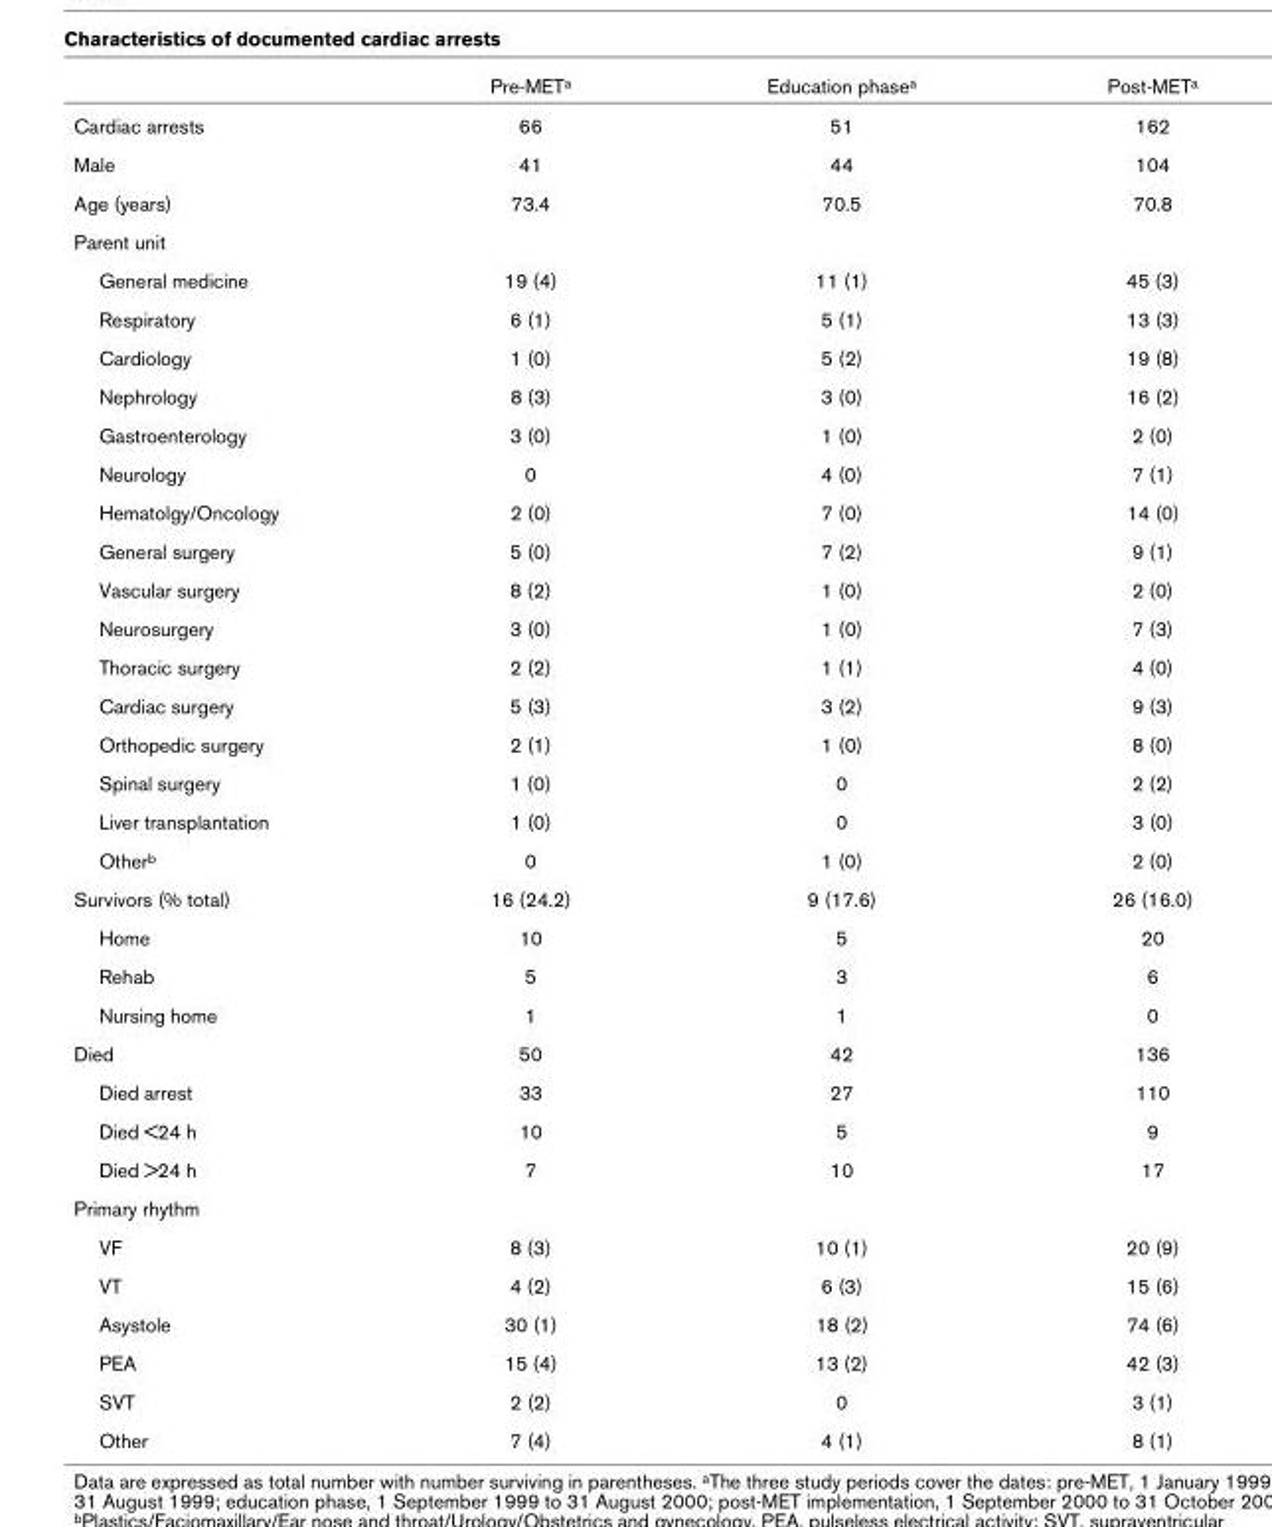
<table><thead><tr><td></td><td>Pre-METa</td><td>Education phasea</td><td>Post-METa</td></tr></thead><tbody><tr><td>Cardiac arrests</td><td>66</td><td>51</td><td>162</td></tr><tr><td>Male</td><td>41</td><td>44</td><td>104</td></tr><tr><td>Age (years)</td><td>73.4</td><td>70.5</td><td>70.8</td></tr><tr><td colspan="4">Parent unit</td></tr><tr><td>General medicine</td><td>19 (4)</td><td>11 (1)</td><td>45 (3)</td></tr><tr><td>Respiratory</td><td>6 (1)</td><td>5 (1)</td><td>13 (3)</td></tr><tr><td>Cardiology</td><td>1 (0)</td><td>5 (2)</td><td>19 (8)</td></tr><tr><td>Nephrology</td><td>8 (3)</td><td>3 (0)</td><td>16 (2)</td></tr><tr><td>Gastroenterology</td><td>3 (0)</td><td>1 (0)</td><td>2 (0)</td></tr><tr><td>Neurology</td><td>0</td><td>4 (0)</td><td>7 (1)</td></tr><tr><td>Hematolgy/Oncology</td><td>2 (0)</td><td>7 (0)</td><td>14 (0)</td></tr><tr><td>General surgery</td><td>5 (0)</td><td>7 (2)</td><td>9 (1)</td></tr><tr><td>Vascular surgery</td><td>8 (2)</td><td>1 (0)</td><td>2 (0)</td></tr><tr><td>Neurosurgery</td><td>3 (0)</td><td>1 (0)</td><td>7 (3)</td></tr><tr><td>Thoracic surgery</td><td>2 (2)</td><td>1 (1)</td><td>4 (0)</td></tr><tr><td>Cardiac surgery</td><td>5 (3)</td><td>3 (2)</td><td>9 (3)</td></tr><tr><td>Orthopedic surgery</td><td>2 (1)</td><td>1 (0)</td><td>8 (0)</td></tr><tr><td>Spinal surgery</td><td>1 (0)</td><td>0</td><td>2 (2)</td></tr><tr><td>Liver transplantation</td><td>1 (0)</td><td>0</td><td>3 (0)</td></tr><tr><td>Otherb</td><td>0</td><td>1 (0)</td><td>2 (0)</td></tr><tr><td>Survivors (% total)</td><td>16 (24.2)</td><td>9 (17.6)</td><td>26 (16.0)</td></tr><tr><td>Home</td><td>10</td><td>5</td><td>20</td></tr><tr><td>Rehab</td><td>5</td><td>3</td><td>6</td></tr><tr><td>Nursing home</td><td>1</td><td>1</td><td>0</td></tr><tr><td>Died</td><td>50</td><td>42</td><td>136</td></tr><tr><td>Died arrest</td><td>33</td><td>27</td><td>110</td></tr><tr><td>Died &lt;24 h</td><td>10</td><td>5</td><td>9</td></tr><tr><td>Died &gt;24 h</td><td>7</td><td>10</td><td>17</td></tr><tr><td colspan="4">Primary rhythm</td></tr><tr><td>VF</td><td>8 (3)</td><td>10 (1)</td><td>20 (9)</td></tr><tr><td>VT</td><td>4 (2)</td><td>6 (3)</td><td>15 (6)</td></tr><tr><td>Asystole</td><td>30 (1)</td><td>18 (2)</td><td>74 (6)</td></tr><tr><td>PEA</td><td>15 (4)</td><td>13 (2)</td><td>42 (3)</td></tr><tr><td>SVT</td><td>2 (2)</td><td>0</td><td>3 (1)</td></tr><tr><td>Other</td><td>7 (4)</td><td>4 (1)</td><td>8 (1)</td></tr></tbody></table>